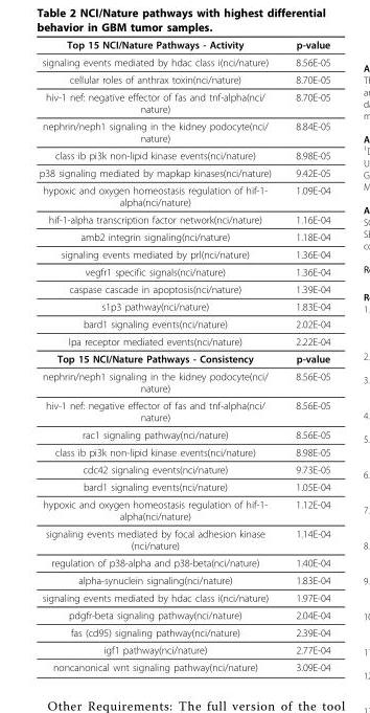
<table><thead><tr><td>Top 15 NCI/Nature Pathways - Activity</td><td>p-value</td></tr></thead><tbody><tr><td>signaling events mediated by hdac class i(nci/nature)</td><td>8.56E-05</td></tr><tr><td>cellular roles of anthrax toxin(nci/nature)</td><td>8.70E-05</td></tr><tr><td>hiv-1 nef: negative effector of fas and tnf-alpha(nci/ nature)</td><td>8.70E-05</td></tr><tr><td>nephrin/neph1 signaling in the kidney podocyte(nci/ nature)</td><td>8.84E-05</td></tr><tr><td>class ib pi3k non-lipid kinase events(nci/nature)</td><td>8.98E-05</td></tr><tr><td>p38 signaling mediated by mapkap kinases(nci/nature)</td><td>9.42E-05</td></tr><tr><td>hypoxic and oxygen homeostasis regulation of hif-1- alpha(nci/nature)</td><td>1.09E-04</td></tr><tr><td>hif-1-alpha transcription factor network(nci/nature)</td><td>1.16E-04</td></tr><tr><td>amb2 integrin signaling(nci/nature)</td><td>1.18E-04</td></tr><tr><td>signaling events mediated by prl(nci/nature)</td><td>1.36E-04</td></tr><tr><td>vegfr1 specific signals(nci/nature)</td><td>1.36E-04</td></tr><tr><td>caspase cascade in apoptosis(nci/nature)</td><td>1.39E-04</td></tr><tr><td>s1p3 pathway(nci/nature)</td><td>1.83E-04</td></tr><tr><td>bard1 signaling events(nci/nature)</td><td>2.02E-04</td></tr><tr><td>lpa receptor mediated events(nci/nature)</td><td>2.22E-04</td></tr><tr><td>Top 15 NCI/Nature Pathways - Consistency</td><td>p-value</td></tr><tr><td>nephrin/neph1 signaling in the kidney podocyte(nci/ nature)</td><td>8.56E-05</td></tr><tr><td>hiv-1 nef: negative effector of fas and tnf-alpha(nci/ nature)</td><td>8.56E-05</td></tr><tr><td>rac1 signaling pathway(nci/nature)</td><td>8.56E-05</td></tr><tr><td>class ib pi3k non-lipid kinase events(nci/nature)</td><td>8.98E-05</td></tr><tr><td>cdc42 signaling events(nci/nature)</td><td>9.73E-05</td></tr><tr><td>bard1 signaling events(nci/nature)</td><td>1.05E-04</td></tr><tr><td>hypoxic and oxygen homeostasis regulation of hif-1- alpha(nci/nature)</td><td>1.12E-04</td></tr><tr><td>signaling events mediated by focal adhesion kinase (nci/nature)</td><td>1.14E-04</td></tr><tr><td>regulation of p38-alpha and p38-beta(nci/nature)</td><td>1.40E-04</td></tr><tr><td>alpha-synuclein signaling(nci/nature)</td><td>1.83E-04</td></tr><tr><td>signaling events mediated by hdac class i(nci/nature)</td><td>1.97E-04</td></tr><tr><td>pdgfr-beta signaling pathway(nci/nature)</td><td>2.04E-04</td></tr><tr><td>fas (cd95) signaling pathway(nci/nature)</td><td>2.39E-04</td></tr><tr><td>igf1 pathway(nci/nature)</td><td>2.77E-04</td></tr><tr><td>noncanonical wnt signaling pathway(nci/nature)</td><td>3.09E-04</td></tr></tbody></table>